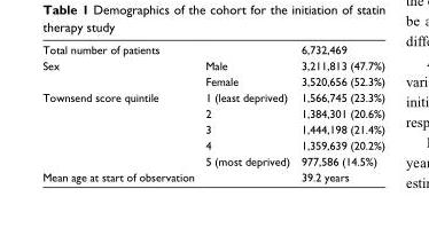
<table><tbody><tr><td>Total number of patients</td><td></td><td>6,732,469</td></tr><tr><td rowspan="2">Sex</td><td>Male</td><td>3,211,813 (47.7%)</td></tr><tr><td>Female</td><td>3,520,656 (52.3%)</td></tr><tr><td rowspan="5">Townsend score quintile</td><td>1 (least deprived)</td><td>1,566,745 (23.3%)</td></tr><tr><td>2</td><td>1,384,301 (20.6%)</td></tr><tr><td>3</td><td>1,444,198 (21.4%)</td></tr><tr><td>4</td><td>1,359,639 (20.2%)</td></tr><tr><td>5 (most deprived)</td><td>977,586 (14.5%)</td></tr><tr><td>Mean age at start of observation</td><td></td><td>39.2 years</td></tr></tbody></table>